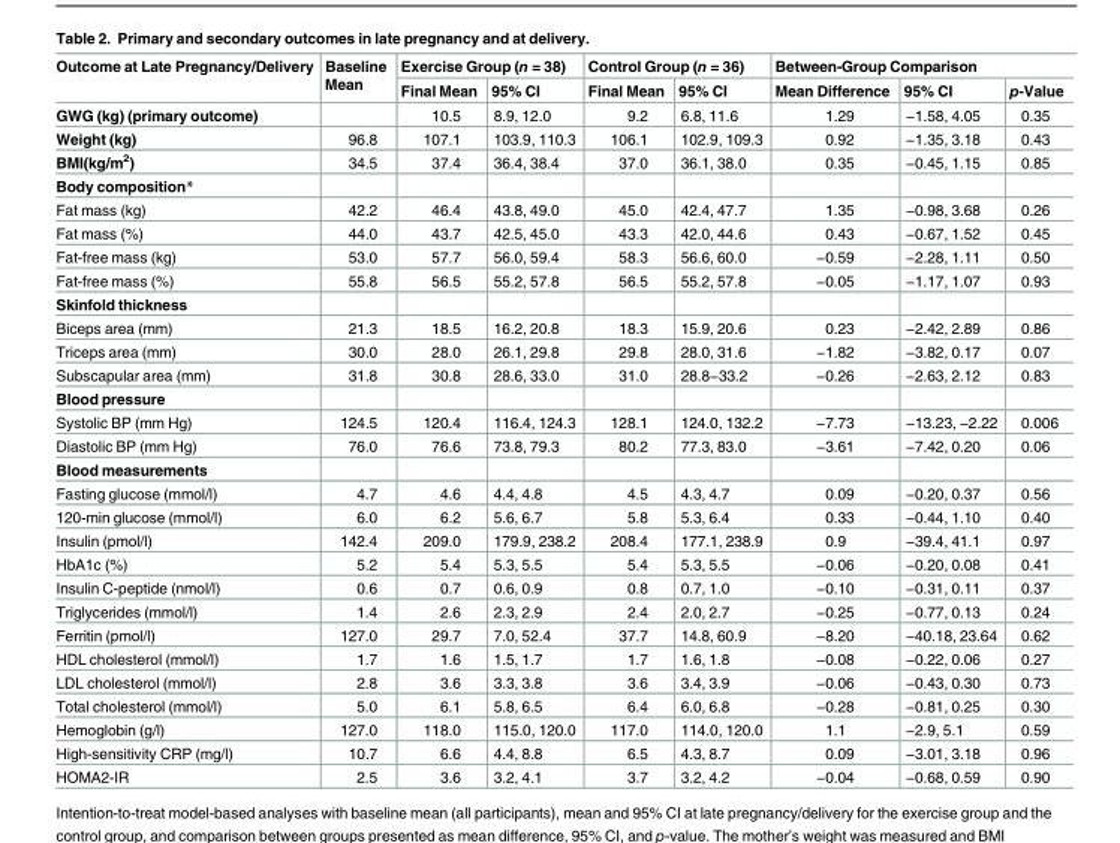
<table><thead><tr><td rowspan="2">Outcome at Late Pregnancy/Delivery</td><td rowspan="2">Baseline Mean</td><td colspan="2">Exercise Group (n = 38)</td><td colspan="2">Control Group (n = 36)</td><td colspan="3">Between-Group Comparison</td></tr><tr><td>Final Mean</td><td>95% CI</td><td>Final Mean</td><td>95% CI</td><td>Mean Difference</td><td>95% CI</td><td>p-Value</td></tr></thead><tbody><tr><td>GWG (kg) (primary outcome)</td><td></td><td>10.5</td><td>8.9, 12.0</td><td>9.2</td><td>6.8, 11.6</td><td>1.29</td><td>−1.58, 4.05</td><td>0.35</td></tr><tr><td>Weight (kg)</td><td>96.8</td><td>107.1</td><td>103.9, 110.3</td><td>106.1</td><td>102.9, 109.3</td><td>0.92</td><td>−1.35, 3.18</td><td>0.43</td></tr><tr><td>BMI(kg/m<sup>2</sup>)</td><td>34.5</td><td>37.4</td><td>36.4, 38.4</td><td>37.0</td><td>36.1, 38.0</td><td>0.35</td><td>−0.45, 1.15</td><td>0.85</td></tr><tr><td colspan="9">Body composition*</td></tr><tr><td>Fat mass (kg)</td><td>42.2</td><td>46.4</td><td>43.8, 49.0</td><td>45.0</td><td>42.4, 47.7</td><td>1.35</td><td>−0.98, 3.68</td><td>0.26</td></tr><tr><td>Fat mass (%)</td><td>44.0</td><td>43.7</td><td>42.5, 45.0</td><td>43.3</td><td>42.0, 44.6</td><td>0.43</td><td>−0.67, 1.52</td><td>0.45</td></tr><tr><td>Fat-free mass (kg)</td><td>53.0</td><td>57.7</td><td>56.0, 59.4</td><td>58.3</td><td>56.6, 60.0</td><td>−0.59</td><td>−2.28, 1.11</td><td>0.50</td></tr><tr><td>Fat-free mass (%)</td><td>55.8</td><td>56.5</td><td>55.2, 57.8</td><td>56.5</td><td>55.2, 57.8</td><td>−0.05</td><td>−1.17, 1.07</td><td>0.93</td></tr><tr><td colspan="9">Skinfold thickness</td></tr><tr><td>Biceps area (mm)</td><td>21.3</td><td>18.5</td><td>16.2, 20.8</td><td>18.3</td><td>15.9, 20.6</td><td>0.23</td><td>−2.42, 2.89</td><td>0.86</td></tr><tr><td>Triceps area (mm)</td><td>30.0</td><td>28.0</td><td>26.1, 29.8</td><td>29.8</td><td>28.0, 31.6</td><td>−1.82</td><td>−3.82, 0.17</td><td>0.07</td></tr><tr><td>Subscapular area (mm)</td><td>31.8</td><td>30.8</td><td>28.6, 33.0</td><td>31.0</td><td>28.8−33.2</td><td>−0.26</td><td>−2.63, 2.12</td><td>0.83</td></tr><tr><td colspan="9">Blood pressure</td></tr><tr><td>Systolic BP (mm Hg)</td><td>124.5</td><td>120.4</td><td>116.4, 124.3</td><td>128.1</td><td>124.0, 132.2</td><td>−7.73</td><td>−13.23, −2.22</td><td>0.006</td></tr><tr><td>Diastolic BP (mm Hg)</td><td>76.0</td><td>76.6</td><td>73.8, 79.3</td><td>80.2</td><td>77.3, 83.0</td><td>−3.61</td><td>−7.42, 0.20</td><td>0.06</td></tr><tr><td colspan="9">Blood measurements</td></tr><tr><td>Fasting glucose (mmol/l)</td><td>4.7</td><td>4.6</td><td>4.4, 4.8</td><td>4.5</td><td>4.3, 4.7</td><td>0.09</td><td>−0.20, 0.37</td><td>0.56</td></tr><tr><td>120-min glucose (mmol/l)</td><td>6.0</td><td>6.2</td><td>5.6, 6.7</td><td>5.8</td><td>5.3, 6.4</td><td>0.33</td><td>−0.44, 1.10</td><td>0.40</td></tr><tr><td>Insulin (pmol/l)</td><td>142.4</td><td>209.0</td><td>179.9, 238.2</td><td>208.4</td><td>177.1, 238.9</td><td>0.9</td><td>−39.4, 41.1</td><td>0.97</td></tr><tr><td>HbA1c (%)</td><td>5.2</td><td>5.4</td><td>5.3, 5.5</td><td>5.4</td><td>5.3, 5.5</td><td>−0.06</td><td>−0.20, 0.08</td><td>0.41</td></tr><tr><td>Insulin C-peptide (nmol/l)</td><td>0.6</td><td>0.7</td><td>0.6, 0.9</td><td>0.8</td><td>0.7, 1.0</td><td>−0.10</td><td>−0.31, 0.11</td><td>0.37</td></tr><tr><td>Triglycerides (mmol/l)</td><td>1.4</td><td>2.6</td><td>2.3, 2.9</td><td>2.4</td><td>2.0, 2.7</td><td>−0.25</td><td>−0.77, 0.13</td><td>0.24</td></tr><tr><td>Ferritin (pmol/l)</td><td>127.0</td><td>29.7</td><td>7.0, 52.4</td><td>37.7</td><td>14.8, 60.9</td><td>−8.20</td><td>−40.18, 23.64</td><td>0.62</td></tr><tr><td>HDL cholesterol (mmol/l)</td><td>1.7</td><td>1.6</td><td>1.5, 1.7</td><td>1.7</td><td>1.6, 1.8</td><td>−0.08</td><td>−0.22, 0.06</td><td>0.27</td></tr><tr><td>LDL cholesterol (mmol/l)</td><td>2.8</td><td>3.6</td><td>3.3, 3.8</td><td>3.6</td><td>3.4, 3.9</td><td>−0.06</td><td>−0.43, 0.30</td><td>0.73</td></tr><tr><td>Total cholesterol (mmol/l)</td><td>5.0</td><td>6.1</td><td>5.8, 6.5</td><td>6.4</td><td>6.0, 6.8</td><td>−0.28</td><td>−0.81, 0.25</td><td>0.30</td></tr><tr><td>Hemoglobin (g/l)</td><td>127.0</td><td>118.0</td><td>115.0, 120.0</td><td>117.0</td><td>114.0, 120.0</td><td>1.1</td><td>−2.9, 5.1</td><td>0.59</td></tr><tr><td>High-sensitivity CRP (mg/l)</td><td>10.7</td><td>6.6</td><td>4.4, 8.8</td><td>6.5</td><td>4.3, 8.7</td><td>0.09</td><td>−3.01, 3.18</td><td>0.96</td></tr><tr><td>HOMA2-IR</td><td>2.5</td><td>3.6</td><td>3.2, 4.1</td><td>3.7</td><td>3.2, 4.2</td><td>−0.04</td><td>−0.68, 0.59</td><td>0.90</td></tr></tbody></table>